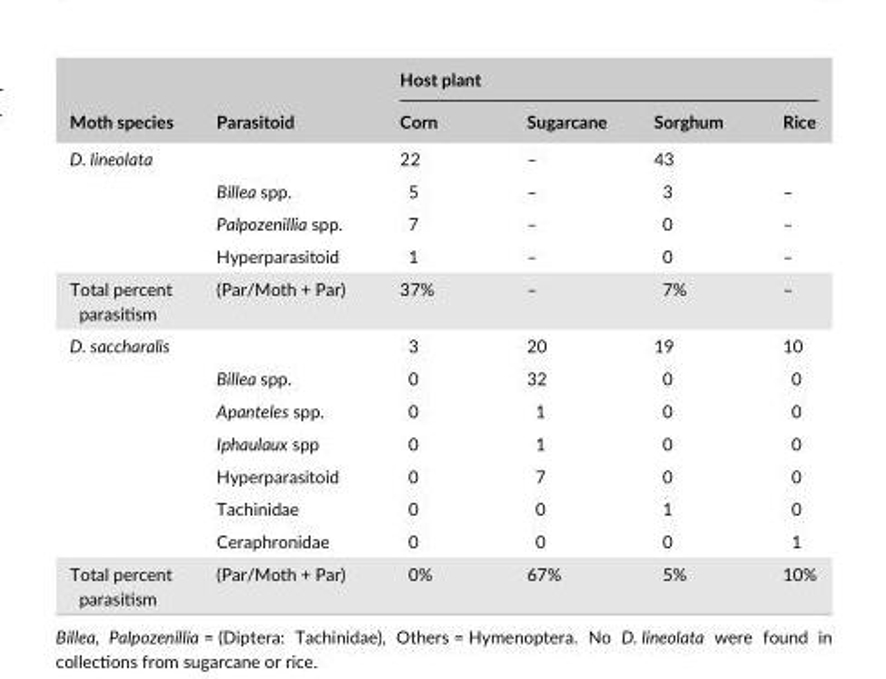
<table><thead><tr><td rowspan="2">Moth species</td><td rowspan="2">Parasitoid</td><td colspan="4">Host plant</td></tr><tr><td>Corn</td><td>Sugarcane</td><td>Sorghum</td><td>Rice</td></tr></thead><tbody><tr><td rowspan="4">D. lineolata</td><td></td><td>22</td><td>–</td><td>43</td><td></td></tr><tr><td>Billea spp.</td><td>5</td><td>–</td><td>3</td><td>–</td></tr><tr><td>Palpozenillia spp.</td><td>7</td><td>–</td><td>0</td><td>–</td></tr><tr><td>Hyperparasitoid</td><td>1</td><td>–</td><td>0</td><td>–</td></tr><tr><td>Total percent parasitism</td><td>(Par/Moth + Par)</td><td>37%</td><td>–</td><td>7%</td><td>–</td></tr><tr><td rowspan="7">D. saccharalis</td><td></td><td>3</td><td>20</td><td>19</td><td>10</td></tr><tr><td>Billea spp.</td><td>0</td><td>32</td><td>0</td><td>0</td></tr><tr><td>Apanteles spp.</td><td>0</td><td>1</td><td>0</td><td>0</td></tr><tr><td>Iphaulaux spp</td><td>0</td><td>1</td><td>0</td><td>0</td></tr><tr><td>Hyperparasitoid</td><td>0</td><td>7</td><td>0</td><td>0</td></tr><tr><td>Tachinidae</td><td>0</td><td>0</td><td>1</td><td>0</td></tr><tr><td>Ceraphronidae</td><td>0</td><td>0</td><td>0</td><td>1</td></tr><tr><td>Total percent parasitism</td><td>(Par/Moth + Par)</td><td>0%</td><td>67%</td><td>5%</td><td>10%</td></tr></tbody></table>